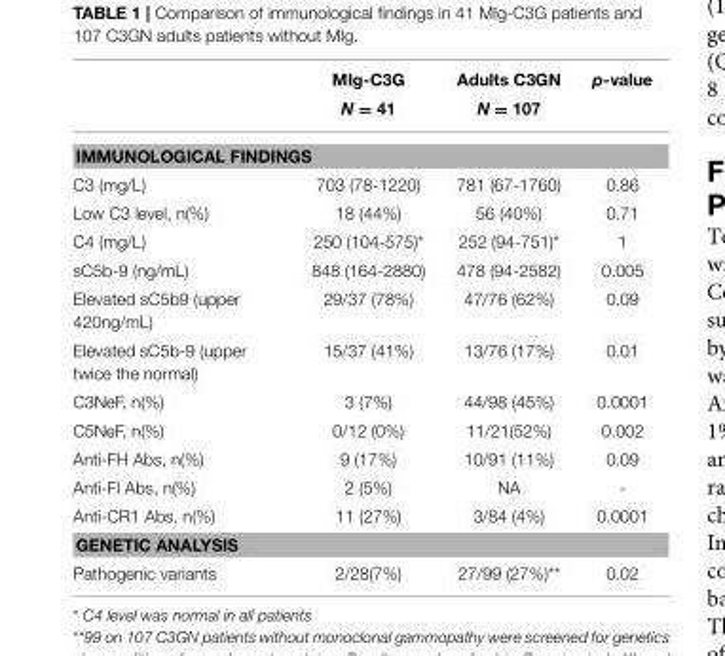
<table><thead><tr><td rowspan="2"></td><td rowspan="2">MIg-C3G N = 41</td><td rowspan="2">Adults C3GN N = 107</td><td rowspan="2">p-value</td></tr><tr></tr></thead><tbody><tr><td colspan="4">IMMUNOLOGICAL FINDINGS</td></tr><tr><td>C3 (mg/L)</td><td>703 (78-1220)</td><td>781 (67-1760)</td><td>0.86</td></tr><tr><td>Low C3 level, n(%)</td><td>18 (44%)</td><td>56 (40%)</td><td>0.71</td></tr><tr><td>C4 (mg/L)</td><td>250 (104-575)*</td><td>252 (94-751)*</td><td>1</td></tr><tr><td>sC5b-9 (ng/mL)</td><td>848 (164-2880)</td><td>478 (94-2582)</td><td>0.005</td></tr><tr><td>Elevated sC5b9 (upper 420ng/mL)</td><td>29/37 (78%)</td><td>47/76 (62%)</td><td>0.09</td></tr><tr><td>Elevated sC5b-9 (upper twice the normal)</td><td>15/37 (41%)</td><td>13/76 (17%)</td><td>0.01</td></tr><tr><td>C3NeF, n(%)</td><td>3 (7%)</td><td>44/98 (45%)</td><td>0.0001</td></tr><tr><td>C5NeF, n(%)</td><td>0/12 (0%)</td><td>11/21(52%)</td><td>0.002</td></tr><tr><td>Anti-FH Abs, n(%)</td><td>9 (17%)</td><td>10/91 (11%)</td><td>0.09</td></tr><tr><td>Anti-FI Abs, n(%)</td><td>2 (5%)</td><td>NA</td><td>-</td></tr><tr><td>Anti-CR1 Abs, n(%)</td><td>11 (27%)</td><td>3/84 (4%)</td><td>0.0001</td></tr><tr><td colspan="4">GENETIC ANALYSIS</td></tr><tr><td>Pathogenic variants</td><td>2/28(7%)</td><td>27/99 (27%)**</td><td>0.02</td></tr></tbody></table>